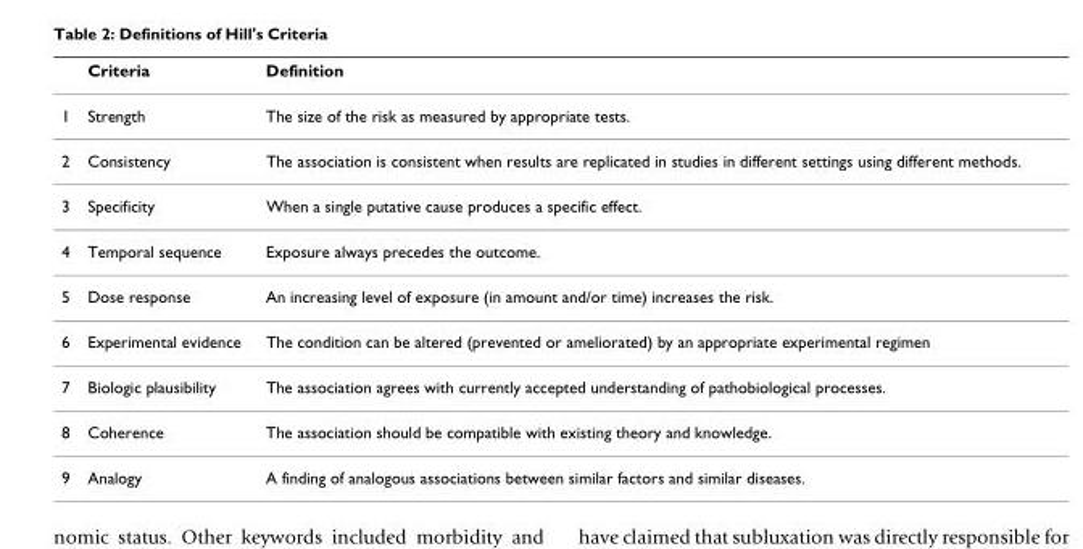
<table><thead><tr><td></td><td>Criteria</td><td>Definition</td></tr></thead><tbody><tr><td>1</td><td>Strength</td><td>The size of the risk as measured by appropriate tests.</td></tr><tr><td>2</td><td>Consistency</td><td>The association is consistent when results are replicated in studies in different settings using different methods.</td></tr><tr><td>3</td><td>Specificity</td><td>When a single putative cause produces a specific effect.</td></tr><tr><td>4</td><td>Temporal sequence</td><td>Exposure always precedes the outcome.</td></tr><tr><td>5</td><td>Dose response</td><td>An increasing level of exposure (in amount and/or time) increases the risk.</td></tr><tr><td>6</td><td>Experimental evidence</td><td>The condition can be altered (prevented or ameliorated) by an appropriate experimental regimen</td></tr><tr><td>7</td><td>Biologic plausibility</td><td>The association agrees with currently accepted understanding of pathobiological processes.</td></tr><tr><td>8</td><td>Coherence</td><td>The association should be compatible with existing theory and knowledge.</td></tr><tr><td>9</td><td>Analogy</td><td>A finding of analogous associations between similar factors and similar diseases.</td></tr></tbody></table>